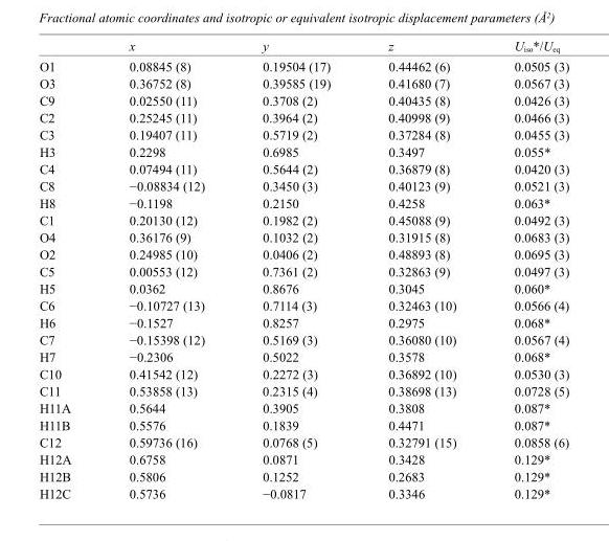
<table><thead><tr><td></td><td>x</td><td>y</td><td>z</td><td>U<sub>iso</sub>*/U<sub>eq</sub></td></tr></thead><tbody><tr><td>O1</td><td>0.08845 (8)</td><td>0.19504 (17)</td><td>0.44462 (6)</td><td>0.0505 (3)</td></tr><tr><td>O3</td><td>0.36752 (8)</td><td>0.39585 (19)</td><td>0.41680 (7)</td><td>0.0567 (3)</td></tr><tr><td>C9</td><td>0.02550 (11)</td><td>0.3708 (2)</td><td>0.40435 (8)</td><td>0.0426 (3)</td></tr><tr><td>C2</td><td>0.25245 (11)</td><td>0.3964 (2)</td><td>0.40998 (9)</td><td>0.0466 (3)</td></tr><tr><td>C3</td><td>0.19407 (11)</td><td>0.5719 (2)</td><td>0.37284 (8)</td><td>0.0455 (3)</td></tr><tr><td>H3</td><td>0.2298</td><td>0.6985</td><td>0.3497</td><td>0.055*</td></tr><tr><td>C4</td><td>0.07494 (11)</td><td>0.5644 (2)</td><td>0.36879 (8)</td><td>0.0420 (3)</td></tr><tr><td>C8</td><td>−0.08834 (12)</td><td>0.3450 (3)</td><td>0.40123 (9)</td><td>0.0521 (3)</td></tr><tr><td>H8</td><td>−0.1198</td><td>0.2150</td><td>0.4258</td><td>0.063*</td></tr><tr><td>C1</td><td>0.20130 (12)</td><td>0.1982 (2)</td><td>0.45088 (9)</td><td>0.0492 (3)</td></tr><tr><td>O4</td><td>0.36176 (9)</td><td>0.1032 (2)</td><td>0.31915 (8)</td><td>0.0683 (3)</td></tr><tr><td>O2</td><td>0.24985 (10)</td><td>0.0406 (2)</td><td>0.48893 (8)</td><td>0.0695 (3)</td></tr><tr><td>C5</td><td>0.00553 (12)</td><td>0.7361 (2)</td><td>0.32863 (9)</td><td>0.0497 (3)</td></tr><tr><td>H5</td><td>0.0362</td><td>0.8676</td><td>0.3045</td><td>0.060*</td></tr><tr><td>C6</td><td>−0.10727 (13)</td><td>0.7114 (3)</td><td>0.32463 (10)</td><td>0.0566 (4)</td></tr><tr><td>H6</td><td>−0.1527</td><td>0.8257</td><td>0.2975</td><td>0.068*</td></tr><tr><td>C7</td><td>−0.15398 (12)</td><td>0.5169 (3)</td><td>0.36080 (10)</td><td>0.0567 (4)</td></tr><tr><td>H7</td><td>−0.2306</td><td>0.5022</td><td>0.3578</td><td>0.068*</td></tr><tr><td>C10</td><td>0.41542 (12)</td><td>0.2272 (3)</td><td>0.36892 (10)</td><td>0.0530 (3)</td></tr><tr><td>C11</td><td>0.53858 (13)</td><td>0.2315 (4)</td><td>0.38698 (13)</td><td>0.0728 (5)</td></tr><tr><td>H11A</td><td>0.5644</td><td>0.3905</td><td>0.3808</td><td>0.087*</td></tr><tr><td>H11B</td><td>0.5576</td><td>0.1839</td><td>0.4471</td><td>0.087*</td></tr><tr><td>C12</td><td>0.59736 (16)</td><td>0.0768 (5)</td><td>0.32791 (15)</td><td>0.0858 (6)</td></tr><tr><td>H12A</td><td>0.6758</td><td>0.0871</td><td>0.3428</td><td>0.129*</td></tr><tr><td>H12B</td><td>0.5806</td><td>0.1252</td><td>0.2683</td><td>0.129*</td></tr><tr><td>H12C</td><td>0.5736</td><td>−0.0817</td><td>0.3346</td><td>0.129*</td></tr></tbody></table>